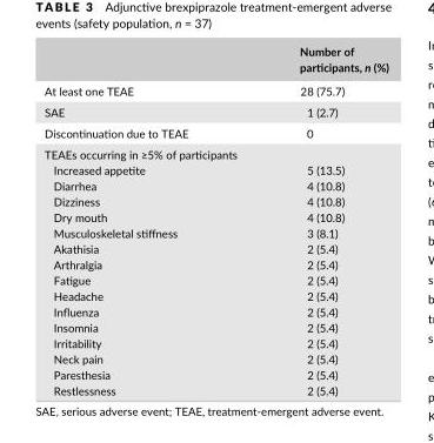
<table><thead><tr><td></td><td>Number of participants, n (%)</td></tr></thead><tbody><tr><td>At least one TEAE</td><td>28 (75.7)</td></tr><tr><td>SAE</td><td>1 (2.7)</td></tr><tr><td>Discontinuation due to TEAE</td><td>0</td></tr><tr><td colspan="2">TEAEs occurring in ≥5% of participants</td></tr><tr><td>Increased appetite</td><td>5 (13.5)</td></tr><tr><td>Diarrhea</td><td>4 (10.8)</td></tr><tr><td>Dizziness</td><td>4 (10.8)</td></tr><tr><td>Dry mouth</td><td>4 (10.8)</td></tr><tr><td>Musculoskeletal stiffness</td><td>3 (8.1)</td></tr><tr><td>Akathisia</td><td>2 (5.4)</td></tr><tr><td>Arthralgia</td><td>2 (5.4)</td></tr><tr><td>Fatigue</td><td>2 (5.4)</td></tr><tr><td>Headache</td><td>2 (5.4)</td></tr><tr><td>Influenza</td><td>2 (5.4)</td></tr><tr><td>Insomnia</td><td>2 (5.4)</td></tr><tr><td>Irritability</td><td>2 (5.4)</td></tr><tr><td>Neck pain</td><td>2 (5.4)</td></tr><tr><td>Paresthesia</td><td>2 (5.4)</td></tr><tr><td>Restlessness</td><td>2 (5.4)</td></tr></tbody></table>